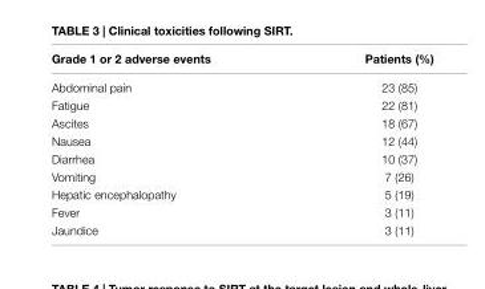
<table><thead><tr><td>grade 1 or 2 adverse events</td><td>Patients (%)</td></tr></thead><tbody><tr><td>Abdominal pain</td><td>23 (85)</td></tr><tr><td>Fatigue</td><td>22 (81)</td></tr><tr><td>Ascites</td><td>18 (67)</td></tr><tr><td>Nausea</td><td>12 (44)</td></tr><tr><td>Diarrhea</td><td>10 (37)</td></tr><tr><td>Vomiting</td><td>7 (26)</td></tr><tr><td>Hepatic encephalopathy</td><td>5 (19)</td></tr><tr><td>Fever</td><td>3 (11)</td></tr><tr><td>Jaundice</td><td>3 (11)</td></tr></tbody></table>